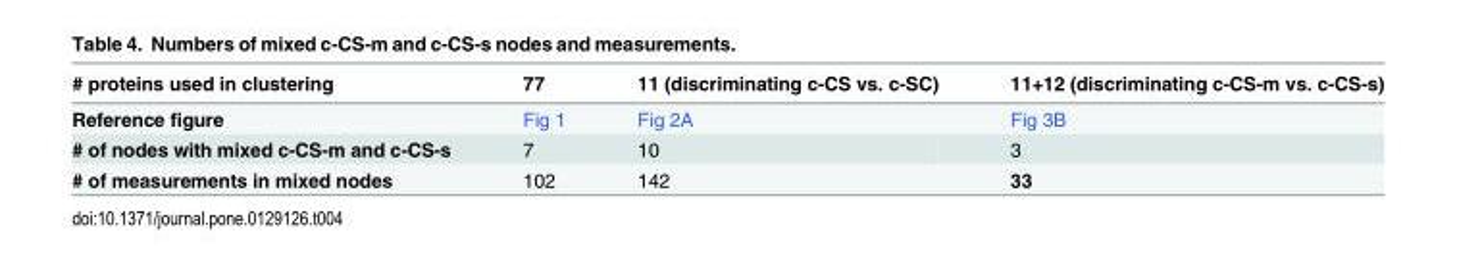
<table><thead><tr><td># proteins used in clustering</td><td>77</td><td>11 (discriminating c-CS vs. c-SC)</td><td>11+12 (discriminating c-CS-m vs. c-CS-s)</td></tr></thead><tbody><tr><td>Reference figure</td><td>Fig 1</td><td>Fig 2A</td><td>Fig 3B</td></tr><tr><td># of nodes with mixed c-CS-m and c-CS-s</td><td>7</td><td>10</td><td>3</td></tr><tr><td># of measurements in mixed nodes</td><td>102</td><td>142</td><td>33</td></tr></tbody></table>